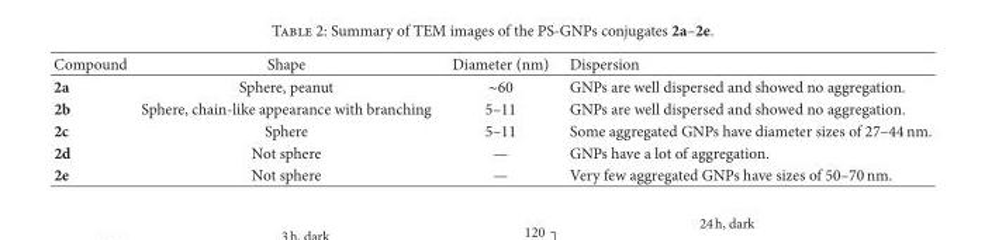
<table><thead><tr><td>Compound</td><td>Shape</td><td>Diameter (nm)</td><td>Dispersion</td></tr></thead><tbody><tr><td>2a</td><td>Sphere, peanut</td><td>∼60</td><td>GNPs are well dispersed and showed no aggregation.</td></tr><tr><td>2b</td><td>Sphere, chain-like appearance with branching</td><td>5–11</td><td>GNPs are well dispersed and showed no aggregation.</td></tr><tr><td>2c</td><td>Sphere</td><td>5–11</td><td>Some aggregated GNPs have diameter sizes of 27–44 nm.</td></tr><tr><td>2d</td><td>Not sphere</td><td>—</td><td>GNPs have a lot of aggregation.</td></tr><tr><td>2e</td><td>Not sphere</td><td>—</td><td>Very few aggregated GNPs have sizes of 50–70 nm.</td></tr></tbody></table>